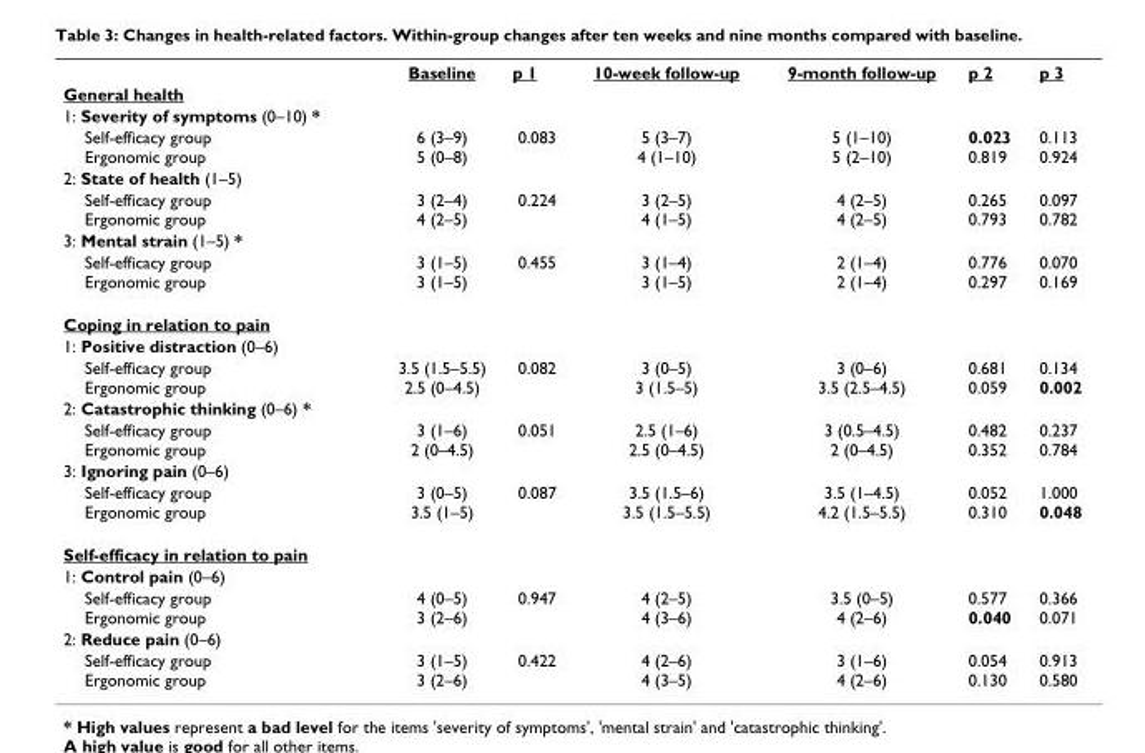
<table><thead><tr><td></td><td>Baseline</td><td>p 1</td><td>10-week follow-up</td><td>9-month follow-up</td><td>p 2</td><td>p 3</td></tr></thead><tbody><tr><td colspan="7">General health</td></tr><tr><td colspan="7">1: Severity of symptoms (0–10) *</td></tr><tr><td>Self-efficacy group Ergonomic group</td><td>6 (3–9) 5 (0–8)</td><td>0.083</td><td>5 (3–7) 4 (1–10)</td><td>5 (1–10) 5 (2–10)</td><td>0.023 0.819</td><td>0.113 0.924</td></tr><tr><td colspan="7">2: State of health (1–5)</td></tr><tr><td>Self-efficacy group Ergonomic group</td><td>3 (2–4) 4 (2–5)</td><td>0.224</td><td>3 (2–5) 4 (1–5)</td><td>4 (2–5) 4 (2–5)</td><td>0.265 0.793</td><td>0.097 0.782</td></tr><tr><td colspan="7">3: Mental strain (1–5) *</td></tr><tr><td>Self-efficacy group Ergonomic group</td><td>3 (1–5) 3 (1–5)</td><td>0.455</td><td>3 (1–4) 3 (1–5)</td><td>2 (1–4) 2 (1–4)</td><td>0.776 0.297</td><td>0.070 0.169</td></tr><tr><td colspan="7">Coping in relation to pain</td></tr><tr><td colspan="7">1: Positive distraction (0–6)</td></tr><tr><td>Self-efficacy group Ergonomic group</td><td>3.5 (1.5–5.5) 2.5 (0–4.5)</td><td>0.082</td><td>3 (0–5) 3 (1.5–5)</td><td>3 (0–6) 3.5 (2.5–4.5)</td><td>0.681 0.059</td><td>0.134 0.002</td></tr><tr><td colspan="7">2: Catastrophic thinking (0–6) *</td></tr><tr><td>Self-efficacy group Ergonomic group</td><td>3 (1–6) 2 (0–4.5)</td><td>0.051</td><td>2.5 (1–6) 2.5 (0–4.5)</td><td>3 (0.5–4.5) 2 (0–4.5)</td><td>0.482 0.352</td><td>0.237 0.784</td></tr><tr><td colspan="7">3: Ignoring pain (0–6)</td></tr><tr><td>Self-efficacy group Ergonomic group</td><td>3 (0–5) 3.5 (1–5)</td><td>0.087</td><td>3.5 (1.5–6) 3.5 (1.5–5.5)</td><td>3.5 (1–4.5) 4.2 (1.5–5.5)</td><td>0.052 0.310</td><td>1.000 0.048</td></tr><tr><td colspan="7">Self-efficacy in relation to pain</td></tr><tr><td colspan="7">1: Control pain (0–6)</td></tr><tr><td>Self-efficacy group Ergonomic group</td><td>4 (0–5) 3 (2–6)</td><td>0.947</td><td>4 (2–5) 4 (3–6)</td><td>3.5 (0–5) 4 (2–6)</td><td>0.577 0.040</td><td>0.366 0.071</td></tr><tr><td colspan="7">2: Reduce pain (0–6)</td></tr><tr><td>Self-efficacy group Ergonomic group</td><td>3 (1–5) 3 (2–6)</td><td>0.422</td><td>4 (2–6) 4 (3–5)</td><td>3 (1–6) 4 (2–6)</td><td>0.054 0.130</td><td>0.913 0.580</td></tr></tbody></table>